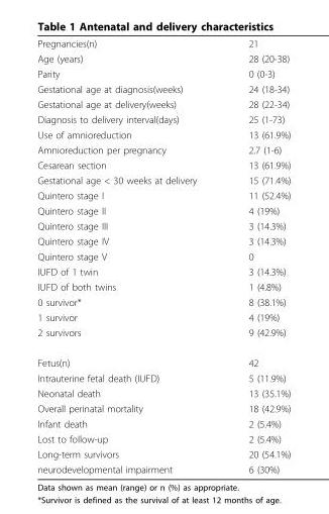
<table><tbody><tr><td>Pregnancies(n)</td><td>21</td></tr><tr><td>Age (years)</td><td>28 (20-38)</td></tr><tr><td>Parity</td><td>0 (0-3)</td></tr><tr><td>Gestational age at diagnosis(weeks)</td><td>24 (18-34)</td></tr><tr><td>Gestational age at delivery(weeks)</td><td>28 (22-34)</td></tr><tr><td>Diagnosis to delivery interval(days)</td><td>25 (1-73)</td></tr><tr><td>Use of amnioreduction</td><td>13 (61.9%)</td></tr><tr><td>Amnioreduction per pregnancy</td><td>2.7 (1-6)</td></tr><tr><td>Cesarean section</td><td>13 (61.9%)</td></tr><tr><td>Gestational age &lt; 30 weeks at delivery</td><td>15 (71.4%)</td></tr><tr><td>Quintero stage I</td><td>11 (52.4%)</td></tr><tr><td>Quintero stage II</td><td>4 (19%)</td></tr><tr><td>Quintero stage III</td><td>3 (14.3%)</td></tr><tr><td>Quintero stage IV</td><td>3 (14.3%)</td></tr><tr><td>Quintero stage V</td><td>0</td></tr><tr><td>IUFD of 1 twin</td><td>3 (14.3%)</td></tr><tr><td>IUFD of both twins</td><td>1 (4.8%)</td></tr><tr><td>0 survivor*</td><td>8 (38.1%)</td></tr><tr><td>1 survivor</td><td>4 (19%)</td></tr><tr><td>2 survivors</td><td>9 (42.9%)</td></tr><tr><td>Fetus(n)</td><td>42</td></tr><tr><td>Intrauterine fetal death (IUFD)</td><td>5 (11.9%)</td></tr><tr><td>Neonatal death</td><td>13 (35.1%)</td></tr><tr><td>Overall perinatal mortality</td><td>18 (42.9%)</td></tr><tr><td>Infant death</td><td>2 (5.4%)</td></tr><tr><td>Lost to follow-up</td><td>2 (5.4%)</td></tr><tr><td>Long-term survivors</td><td>20 (54.1%)</td></tr><tr><td>neurodevelopmental impairment</td><td>6 (30%)</td></tr></tbody></table>